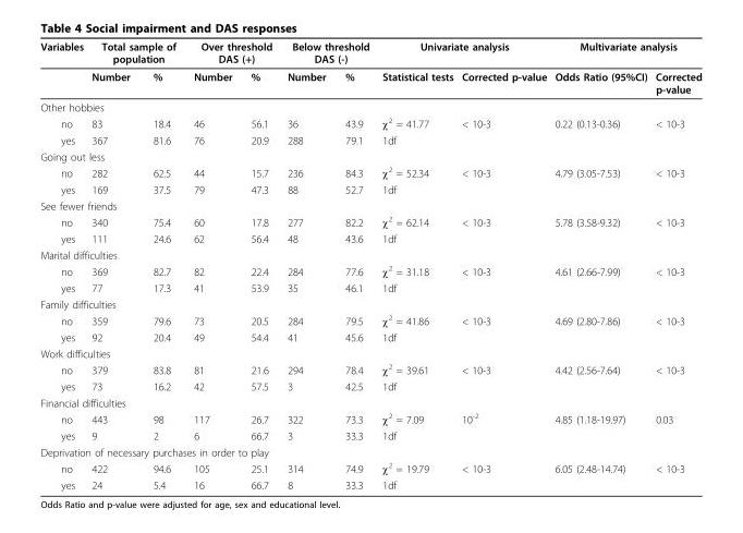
<table><thead><tr><td rowspan="2">Variables</td><td colspan="2">Total sample of population</td><td colspan="2">Over threshold DAS (+)</td><td colspan="2">Below threshold DAS (-)</td><td colspan="2">Univariate analysis</td><td colspan="2">Multivariate analysis</td></tr><tr><td>Number</td><td>%</td><td>Number</td><td>%</td><td>Number</td><td>%</td><td>Statistical tests</td><td>Corrected p-value</td><td>Odds Ratio (95%CI)</td><td>Corrected p-value</td></tr></thead><tbody><tr><td colspan="11">Other hobbies</td></tr><tr><td>no</td><td>83</td><td>18.4</td><td>46</td><td>56.1</td><td>36</td><td>43.9</td><td>χ<sup>2</sup> = 41.77</td><td>&lt; 10-3</td><td>0.22 (0.13-0.36)</td><td>&lt; 10-3</td></tr><tr><td>yes</td><td>367</td><td>81.6</td><td>76</td><td>20.9</td><td>288</td><td>79.1</td><td>1df</td><td></td><td></td><td></td></tr><tr><td colspan="11">Going out less</td></tr><tr><td>no</td><td>282</td><td>62.5</td><td>44</td><td>15.7</td><td>236</td><td>84.3</td><td>χ<sup>2</sup> = 52.34</td><td>&lt; 10-3</td><td>4.79 (3.05-7.53)</td><td>&lt; 10-3</td></tr><tr><td>yes</td><td>169</td><td>37.5</td><td>79</td><td>47.3</td><td>88</td><td>52.7</td><td>1df</td><td></td><td></td><td></td></tr><tr><td colspan="11">See fewer friends</td></tr><tr><td>no</td><td>340</td><td>75.4</td><td>60</td><td>17.8</td><td>277</td><td>82.2</td><td>χ<sup>2</sup> = 62.14</td><td>&lt; 10-3</td><td>5.78 (3.58-9.32)</td><td>&lt; 10-3</td></tr><tr><td>yes</td><td>111</td><td>24.6</td><td>62</td><td>56.4</td><td>48</td><td>43.6</td><td>1df</td><td></td><td></td><td></td></tr><tr><td colspan="11">Marital difficulties</td></tr><tr><td>no</td><td>369</td><td>82.7</td><td>82</td><td>22.4</td><td>284</td><td>77.6</td><td>χ<sup>2</sup> = 31.18</td><td>&lt; 10-3</td><td>4.61 (2.66-7.99)</td><td>&lt; 10-3</td></tr><tr><td>yes</td><td>77</td><td>17.3</td><td>41</td><td>53.9</td><td>35</td><td>46.1</td><td>1df</td><td></td><td></td><td></td></tr><tr><td colspan="11">Family difficulties</td></tr><tr><td>no</td><td>359</td><td>79.6</td><td>73</td><td>20.5</td><td>284</td><td>79.5</td><td>χ<sup>2</sup> = 41.86</td><td>&lt; 10-3</td><td>4.69 (2.80-7.86)</td><td>&lt; 10-3</td></tr><tr><td>yes</td><td>92</td><td>20.4</td><td>49</td><td>54.4</td><td>41</td><td>45.6</td><td>1df</td><td></td><td></td><td></td></tr><tr><td colspan="11">Work difficulties</td></tr><tr><td>no</td><td>379</td><td>83.8</td><td>81</td><td>21.6</td><td>294</td><td>78.4</td><td>χ<sup>2</sup> = 39.61</td><td>&lt; 10-3</td><td>4.42 (2.56-7.64)</td><td>&lt; 10-3</td></tr><tr><td>yes</td><td>73</td><td>16.2</td><td>42</td><td>57.5</td><td>3</td><td>42.5</td><td>1df</td><td></td><td></td><td></td></tr><tr><td colspan="11">Financial difficulties</td></tr><tr><td>no</td><td>443</td><td>98</td><td>117</td><td>26.7</td><td>322</td><td>73.3</td><td>χ<sup>2</sup> = 7.09</td><td>10<sup>-2</sup></td><td>4.85 (1.18-19.97)</td><td>0.03</td></tr><tr><td>yes</td><td>9</td><td>2</td><td>6</td><td>66.7</td><td>3</td><td>33.3</td><td>1df</td><td></td><td></td><td></td></tr><tr><td colspan="11">Deprivation of necessary purchases in order to play</td></tr><tr><td>no</td><td>422</td><td>94.6</td><td>105</td><td>25.1</td><td>314</td><td>74.9</td><td>χ<sup>2</sup> = 19.79</td><td>&lt; 10-3</td><td>6.05 (2.48-14.74)</td><td>&lt; 10-3</td></tr><tr><td>yes</td><td>24</td><td>5.4</td><td>16</td><td>66.7</td><td>8</td><td>33.3</td><td>1df</td><td></td><td></td><td></td></tr></tbody></table>